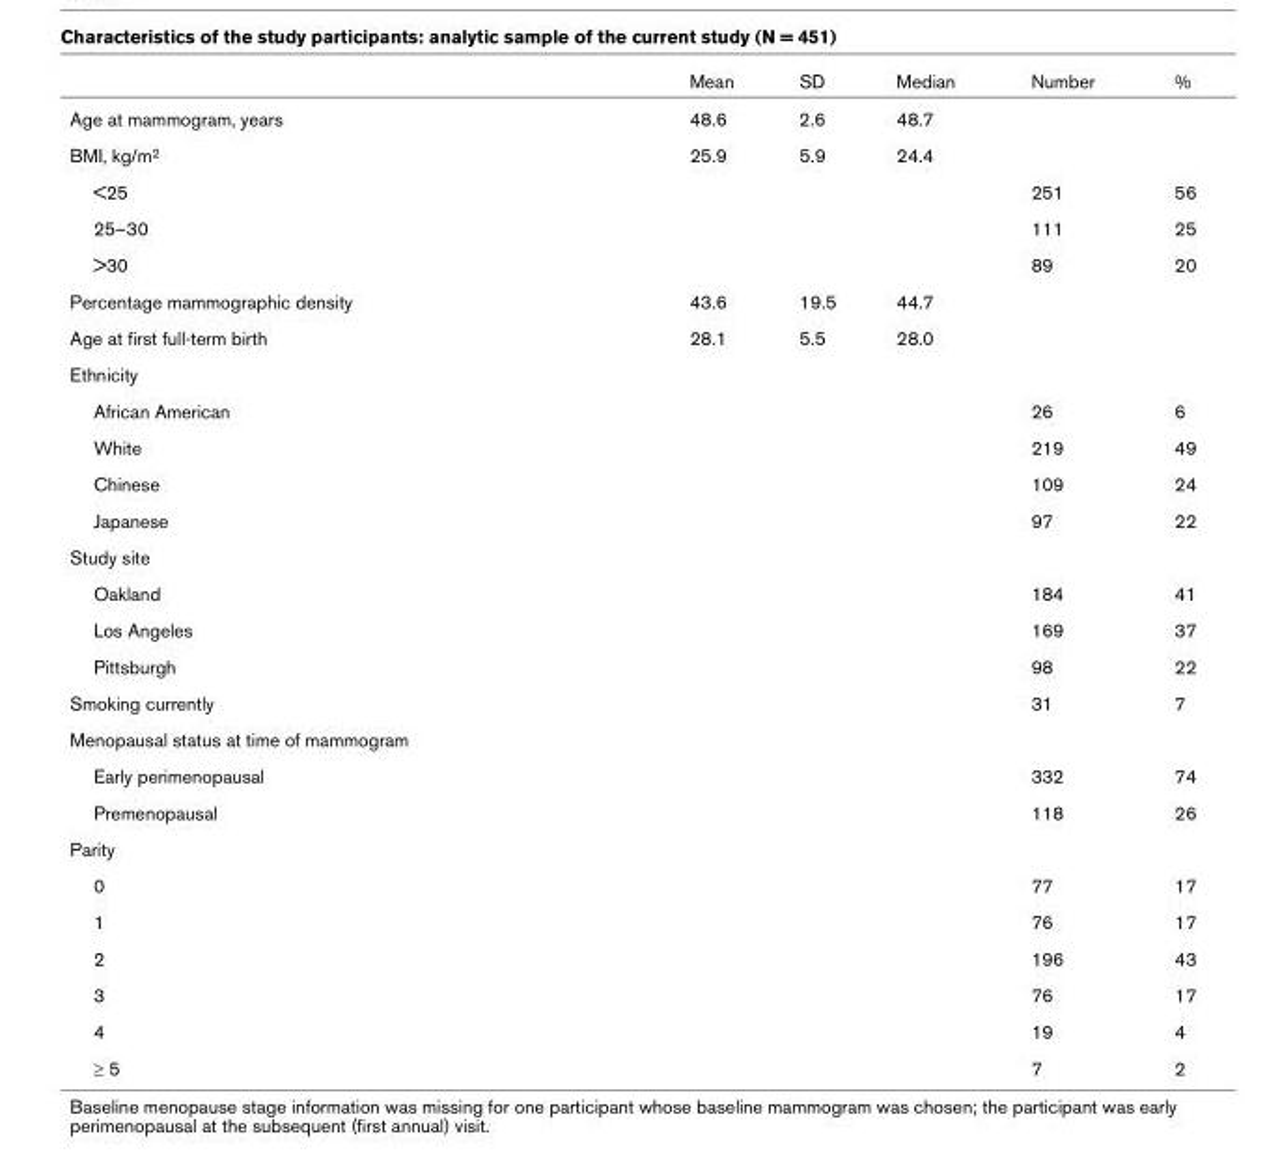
<table><thead><tr><td></td><td>Mean</td><td>SD</td><td>Median</td><td>Number</td><td>%</td></tr></thead><tbody><tr><td>Age at mammogram, years</td><td>48.6</td><td>2.6</td><td>48.7</td><td></td><td></td></tr><tr><td>BMI, kg/m<sup>2</sup></td><td>25.9</td><td>5.9</td><td>24.4</td><td></td><td></td></tr><tr><td>&lt;25</td><td></td><td></td><td></td><td>251</td><td>56</td></tr><tr><td>25–30</td><td></td><td></td><td></td><td>111</td><td>25</td></tr><tr><td>&gt;30</td><td></td><td></td><td></td><td>89</td><td>20</td></tr><tr><td>Percentage mammographic density</td><td>43.6</td><td>19.5</td><td>44.7</td><td></td><td></td></tr><tr><td>Age at first full-term birth</td><td>28.1</td><td>5.5</td><td>28.0</td><td></td><td></td></tr><tr><td colspan="6">Ethnicity</td></tr><tr><td>African American</td><td></td><td></td><td></td><td>26</td><td>6</td></tr><tr><td>White</td><td></td><td></td><td></td><td>219</td><td>49</td></tr><tr><td>Chinese</td><td></td><td></td><td></td><td>109</td><td>24</td></tr><tr><td>Japanese</td><td></td><td></td><td></td><td>97</td><td>22</td></tr><tr><td colspan="6">Study site</td></tr><tr><td>Oakland</td><td></td><td></td><td></td><td>184</td><td>41</td></tr><tr><td>Los Angeles</td><td></td><td></td><td></td><td>169</td><td>37</td></tr><tr><td>Pittsburgh</td><td></td><td></td><td></td><td>98</td><td>22</td></tr><tr><td>Smoking currently</td><td></td><td></td><td></td><td>31</td><td>7</td></tr><tr><td colspan="6">Menopausal status at time of mammogram</td></tr><tr><td>Early perimenopausal</td><td></td><td></td><td></td><td>332</td><td>74</td></tr><tr><td>Premenopausal</td><td></td><td></td><td></td><td>118</td><td>26</td></tr><tr><td colspan="6">Parity</td></tr><tr><td>0</td><td></td><td></td><td></td><td>77</td><td>17</td></tr><tr><td>1</td><td></td><td></td><td></td><td>76</td><td>17</td></tr><tr><td>2</td><td></td><td></td><td></td><td>196</td><td>43</td></tr><tr><td>3</td><td></td><td></td><td></td><td>76</td><td>17</td></tr><tr><td>4</td><td></td><td></td><td></td><td>19</td><td>4</td></tr><tr><td>≥ 5</td><td></td><td></td><td></td><td>7</td><td>2</td></tr></tbody></table>